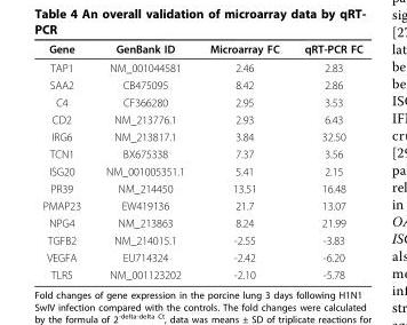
<table><thead><tr><td>Gene</td><td>GenBank ID</td><td>Microarray FC</td><td>qRT-PCR FC</td></tr></thead><tbody><tr><td>TAP1</td><td>NM_001044581</td><td>2.46</td><td>2.83</td></tr><tr><td>SAA2</td><td>CB475095</td><td>8.42</td><td>2.86</td></tr><tr><td>C4</td><td>CF366280</td><td>2.95</td><td>3.53</td></tr><tr><td>CD2</td><td>NM_213776.1</td><td>2.93</td><td>6.43</td></tr><tr><td>IRG6</td><td>NM_213817.1</td><td>3.84</td><td>32.50</td></tr><tr><td>TCN1</td><td>BX675338</td><td>7.37</td><td>3.56</td></tr><tr><td>ISG20</td><td>NM_001005351.1</td><td>5.41</td><td>2.15</td></tr><tr><td>PR39</td><td>NM_214450</td><td>13.51</td><td>16.48</td></tr><tr><td>PMAP23</td><td>EW419136</td><td>21.7</td><td>13.07</td></tr><tr><td>NPG4</td><td>NM_213863</td><td>8.24</td><td>21.99</td></tr><tr><td>TGFB2</td><td>NM_214015.1</td><td>-2.55</td><td>-3.83</td></tr><tr><td>VEGFA</td><td>EU714324</td><td>-2.42</td><td>-6.20</td></tr><tr><td>TLR5</td><td>NM_001123202</td><td>-2.10</td><td>-5.78</td></tr></tbody></table>